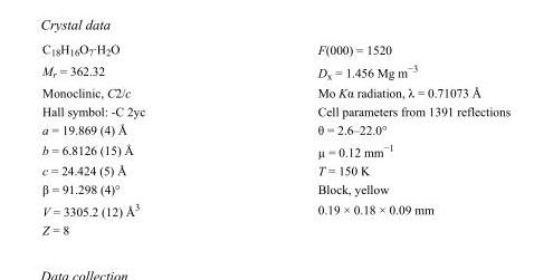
<table><tbody><tr><td>C<sub>18</sub>H<sub>16</sub>O<sub>7</sub>·H<sub>2</sub>O</td><td>F(000) = 1520</td></tr><tr><td>M<sub>r</sub> = 362.32</td><td>D<sub>x</sub> = 1.456 Mg m<sup>−3</sup></td></tr><tr><td>Monoclinic, C2/c</td><td>Mo Kα radiation, λ = 0.71073 Å</td></tr><tr><td>Hall symbol: -C 2yc</td><td>Cell parameters from 1391 reflections</td></tr><tr><td>a = 19.869 (4) Å</td><td>θ = 2.6–22.0°</td></tr><tr><td>b = 6.8126 (15) Å</td><td>µ = 0.12 mm<sup>−1</sup></td></tr><tr><td>c = 24.424 (5) Å</td><td>T = 150 K</td></tr><tr><td>β = 91.298 (4)°</td><td>Block, yellow</td></tr><tr><td>V = 3305.2 (12) Å<sup>3</sup></td><td>0.19 × 0.18 × 0.09 mm</td></tr><tr><td>Z = 8</td><td></td></tr></tbody></table>